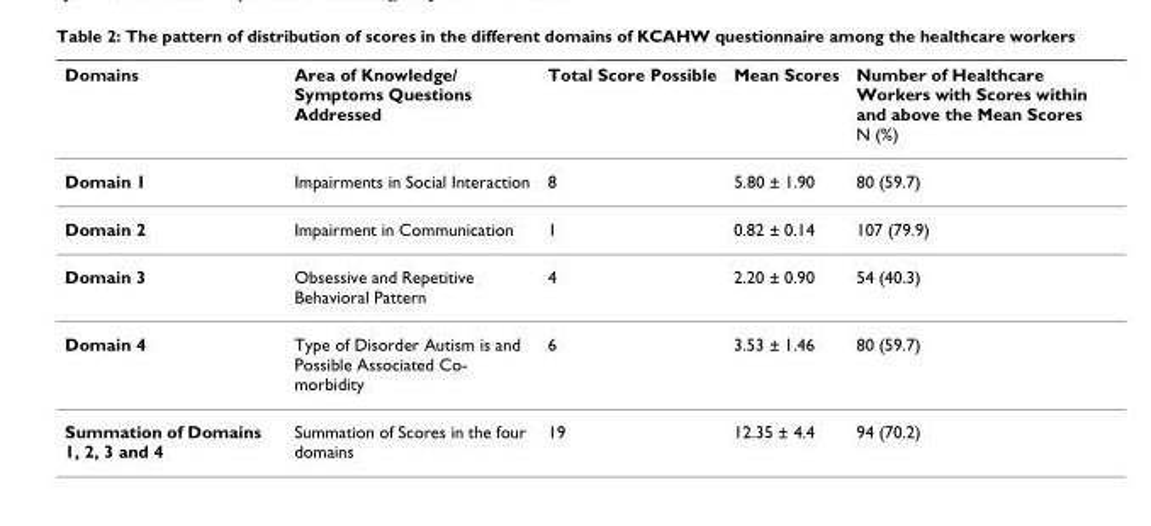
<table><thead><tr><td>Domains</td><td>Area of Knowledge/ Symptoms Questions Addressed</td><td>Total Score Possible</td><td>Mean Scores</td><td>Number of Healthcare Workers with Scores within and above the Mean Scores N (%)</td></tr></thead><tbody><tr><td>Domain 1</td><td>Impairments in Social Interaction</td><td>8</td><td>5.80 ± 1.90</td><td>80 (59.7)</td></tr><tr><td>Domain 2</td><td>Impairment in Communication</td><td>1</td><td>0.82 ± 0.14</td><td>107 (79.9)</td></tr><tr><td>Domain 3</td><td>Obsessive and Repetitive Behavioral Pattern</td><td>4</td><td>2.20 ± 0.90</td><td>54 (40.3)</td></tr><tr><td>Domain 4</td><td>Type of Disorder Autism is and Possible Associated Co- morbidity</td><td>6</td><td>3.53 ± 1.46</td><td>80 (59.7)</td></tr><tr><td>Summation of Domains 1, 2, 3 and 4</td><td>Summation of Scores in the four domains</td><td>19</td><td>12.35 ± 4.4</td><td>94 (70.2)</td></tr></tbody></table>